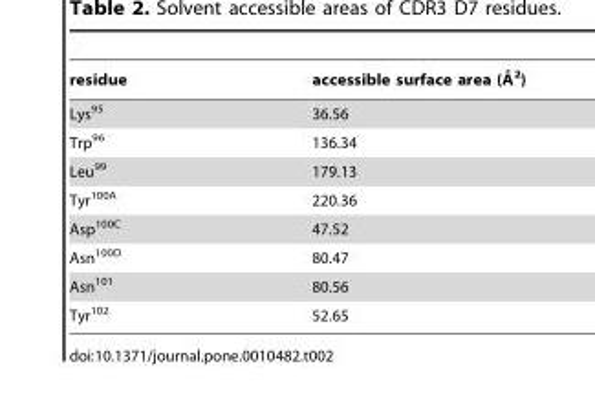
<table><thead><tr><td>residue</td><td>accessible surface area (A˚ 2)</td></tr></thead><tbody><tr><td>Lys<sup>95</sup></td><td>36.56</td></tr><tr><td>Trp<sup>96</sup></td><td>136.34</td></tr><tr><td>Leu<sup>99</sup></td><td>179.13</td></tr><tr><td>Tyr<sup>100A</sup></td><td>220.36</td></tr><tr><td>Asp<sup>100C</sup></td><td>47.52</td></tr><tr><td>Asn<sup>100D</sup></td><td>80.47</td></tr><tr><td>Asn<sup>101</sup></td><td>80.56</td></tr><tr><td>Tyr<sup>102</sup></td><td>52.65</td></tr></tbody></table>